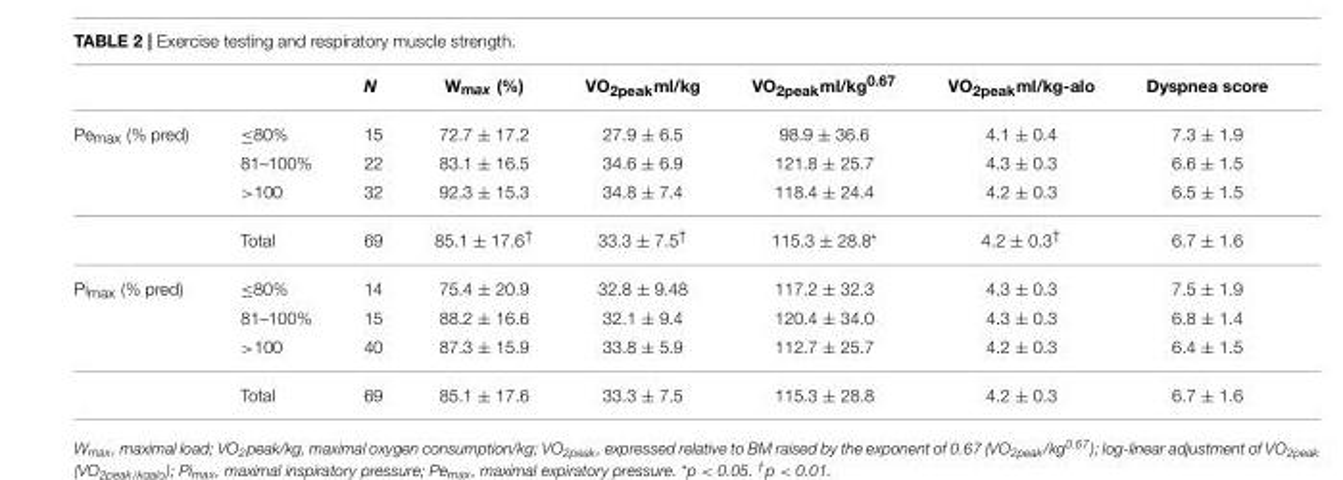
<table><thead><tr><td></td><td></td><td>N</td><td>Wmax (%)</td><td>VO2peakml/kg</td><td>VO2peakml/kg0.67</td><td>VO2peakml/kg-alo</td><td>Dyspnea score</td></tr></thead><tbody><tr><td rowspan="4">Pe<sub>max</sub> (% pred)</td><td>≤80%</td><td>15</td><td>72.7 ± 17.2</td><td>27.9 ± 6.5</td><td>98.9 ± 36.6</td><td>4.1 ± 0.4</td><td>7.3 ± 1.9</td></tr><tr><td>81–100%</td><td>22</td><td>83.1 ± 16.5</td><td>34.6 ± 6.9</td><td>121.8 ± 25.7</td><td>4.3 ± 0.3</td><td>6.6 ± 1.5</td></tr><tr><td>&gt;100</td><td>32</td><td>92.3 ± 15.3</td><td>34.8 ± 7.4</td><td>118.4 ± 24.4</td><td>4.2 ± 0.3</td><td>6.5 ± 1.5</td></tr><tr><td>Total</td><td>69</td><td>85.1 ± 17.6<sup>†</sup></td><td>33.3 ± 7.5<sup>†</sup></td><td>115.3 ± 28.8*</td><td>4.2 ± 0.3<sup>†</sup></td><td>6.7 ± 1.6</td></tr><tr><td rowspan="4">Pi<sub>max</sub> (% pred)</td><td>≤80%</td><td>14</td><td>75.4 ± 20.9</td><td>32.8 ± 9.48</td><td>117.2 ± 32.3</td><td>4.3 ± 0.3</td><td>7.5 ± 1.9</td></tr><tr><td>81–100%</td><td>15</td><td>88.2 ± 16.6</td><td>32.1 ± 9.4</td><td>120.4 ± 34.0</td><td>4.3 ± 0.3</td><td>6.8 ± 1.4</td></tr><tr><td>&gt;100</td><td>40</td><td>87.3 ± 15.9</td><td>33.8 ± 5.9</td><td>112.7 ± 25.7</td><td>4.2 ± 0.3</td><td>6.4 ± 1.5</td></tr><tr><td>Total</td><td>69</td><td>85.1 ± 17.6</td><td>33.3 ± 7.5</td><td>115.3 ± 28.8</td><td>4.2 ± 0.3</td><td>6.7 ± 1.6</td></tr></tbody></table>